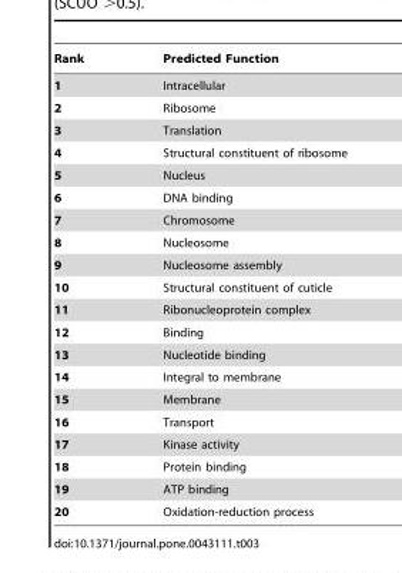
<table><thead><tr><td>Rank</td><td>Predicted Function</td></tr></thead><tbody><tr><td>1</td><td>Intracellular</td></tr><tr><td>2</td><td>Ribosome</td></tr><tr><td>3</td><td>Translation</td></tr><tr><td>4</td><td>Structural constituent of ribosome</td></tr><tr><td>5</td><td>Nucleus</td></tr><tr><td>6</td><td>DNA binding</td></tr><tr><td>7</td><td>Chromosome</td></tr><tr><td>8</td><td>Nucleosome</td></tr><tr><td>9</td><td>Nucleosome assembly</td></tr><tr><td>10</td><td>Structural constituent of cuticle</td></tr><tr><td>11</td><td>Ribonucleoprotein complex</td></tr><tr><td>12</td><td>Binding</td></tr><tr><td>13</td><td>Nucleotide binding</td></tr><tr><td>14</td><td>Integral to membrane</td></tr><tr><td>15</td><td>Membrane</td></tr><tr><td>16</td><td>Transport</td></tr><tr><td>17</td><td>Kinase activity</td></tr><tr><td>18</td><td>Protein binding</td></tr><tr><td>19</td><td>ATP binding</td></tr><tr><td>20</td><td>Oxidation-reduction process</td></tr></tbody></table>